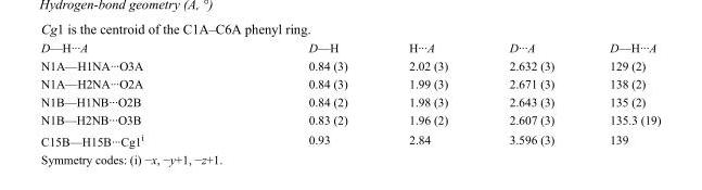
<table><tbody><tr><td>D—H···A</td><td>D—H</td><td>H···A</td><td>D···A</td><td>D—H···A</td></tr><tr><td>N1A—H1NA···O3A</td><td>0.84 (3)</td><td>2.02 (3)</td><td>2.632 (3)</td><td>129 (2)</td></tr><tr><td>N1A—H2NA···O2A</td><td>0.84 (3)</td><td>1.99 (3)</td><td>2.671 (3)</td><td>138 (2)</td></tr><tr><td>N1B—H1NB···O2B</td><td>0.84 (2)</td><td>1.98 (3)</td><td>2.643 (3)</td><td>135 (2)</td></tr><tr><td>N1B—H2NB···O3B</td><td>0.83 (2)</td><td>1.96 (2)</td><td>2.607 (3)</td><td>135.3 (19)</td></tr><tr><td>C15B—H15B···Cg1<sup>i</sup></td><td>0.93</td><td>2.84</td><td>3.596 (3)</td><td>139</td></tr></tbody></table>